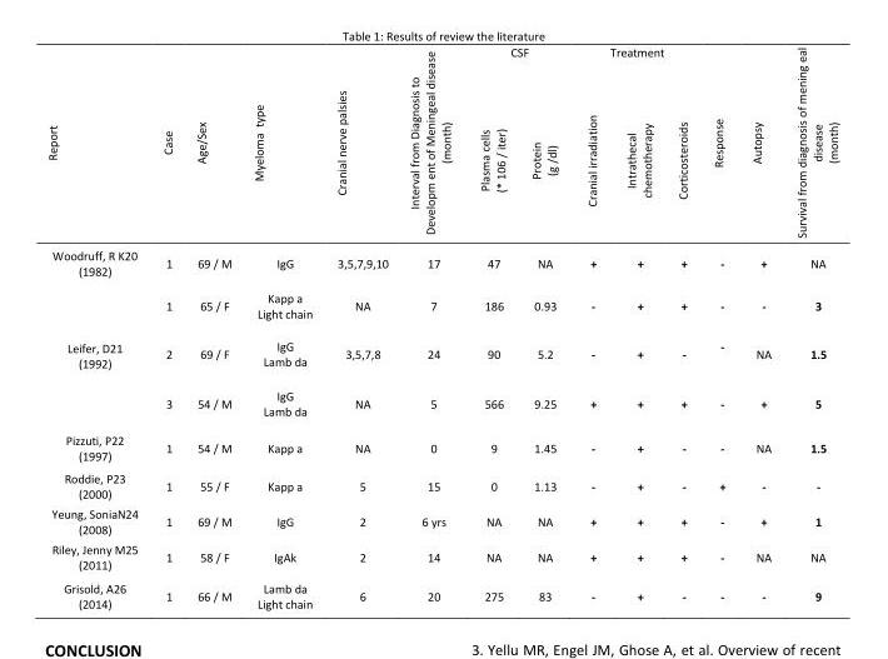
<table><thead><tr><td rowspan="2">Report</td><td rowspan="2">Case</td><td rowspan="2">Age/Sex</td><td rowspan="2">Myeloma type</td><td rowspan="2">Cranial nerve palsies</td><td rowspan="2">Interval from Diagnosis to Developm ent of Meningeal disease (month)</td><td colspan="2">CSF</td><td colspan="3">Treatment</td><td rowspan="2">Response</td><td rowspan="2">Autopsy</td><td rowspan="2">Survival from diagnosis of mening eal disease (month)</td></tr><tr><td>Plasma cells (* 106 / iter)</td><td>Protein (g /dl)</td><td>Cranial irradiation</td><td>Intrathecal chemotherapy</td><td>Corticosteroids</td></tr></thead><tbody><tr><td>Woodruff, R K20 (1982)</td><td>1</td><td>69 / M</td><td>IgG</td><td>3,5,7,9,10</td><td>17</td><td>47</td><td>NA</td><td>+</td><td>+</td><td>+</td><td>-</td><td>+</td><td>NA</td></tr><tr><td rowspan="3">Leifer, D21 (1992)</td><td>1</td><td>65 / F</td><td>Kapp a Light chain</td><td>NA</td><td>7</td><td>186</td><td>0.93</td><td>-</td><td>+</td><td>+</td><td>-</td><td>-</td><td>3</td></tr><tr><td>2</td><td>69 / F</td><td>IgG Lamb da</td><td>3,5,7,8</td><td>24</td><td>90</td><td>5.2</td><td>-</td><td>+</td><td>-</td><td>-</td><td>NA</td><td>1.5</td></tr><tr><td>3</td><td>54 / M</td><td>IgG Lamb da</td><td>NA</td><td>5</td><td>566</td><td>9.25</td><td>+</td><td>+</td><td>+</td><td>-</td><td>+</td><td>5</td></tr><tr><td>Pizzuti, P22 (1997)</td><td>1</td><td>54 / M</td><td>Kapp a</td><td>NA</td><td>0</td><td>9</td><td>1.45</td><td>-</td><td>+</td><td>-</td><td>-</td><td>NA</td><td>1.5</td></tr><tr><td>Roddie, P23 (2000)</td><td>1</td><td>55 / F</td><td>Kapp a</td><td>5</td><td>15</td><td>0</td><td>1.13</td><td>-</td><td>+</td><td>-</td><td>+</td><td>-</td><td>-</td></tr><tr><td>Yeung, SoniaN24 (2008)</td><td>1</td><td>69 / M</td><td>IgG</td><td>2</td><td>6 yrs</td><td>NA</td><td>NA</td><td>+</td><td>+</td><td>+</td><td>-</td><td>+</td><td>1</td></tr><tr><td>Riley, Jenny M25 (2011)</td><td>1</td><td>58 / F</td><td>IgAk</td><td>2</td><td>14</td><td>NA</td><td>NA</td><td>+</td><td>+</td><td>+</td><td>-</td><td>NA</td><td>NA</td></tr><tr><td>Grisold, A26 (2014)</td><td>1</td><td>66 / M</td><td>Lamb da Light chain</td><td>6</td><td>20</td><td>275</td><td>83</td><td>-</td><td>+</td><td>-</td><td>-</td><td>-</td><td>9</td></tr></tbody></table>